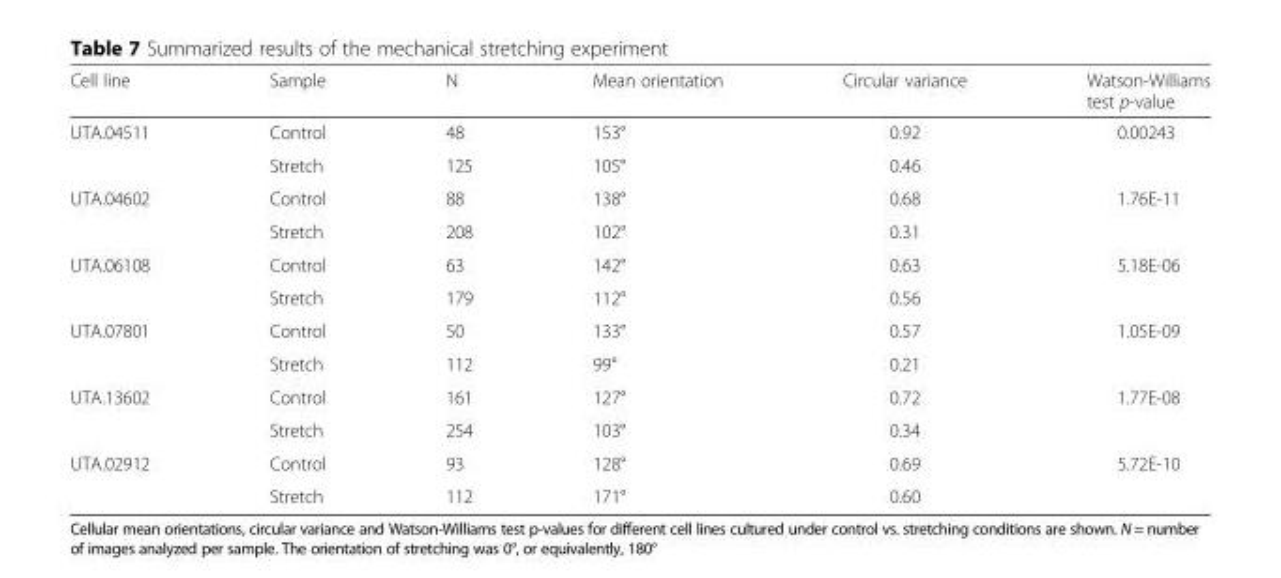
<table><thead><tr><td>Cell line</td><td>Sample</td><td>N</td><td>Mean orientation</td><td>Circular variance</td><td>Watson-Williams test p-value</td></tr></thead><tbody><tr><td rowspan="2">UTA.04511</td><td>Control</td><td>48</td><td>153°</td><td>0.92</td><td rowspan="2">0.00243</td></tr><tr><td>Stretch</td><td>125</td><td>105°</td><td>0.46</td></tr><tr><td rowspan="2">UTA.04602</td><td>Control</td><td>88</td><td>138°</td><td>0.68</td><td rowspan="2">1.76E-11</td></tr><tr><td>Stretch</td><td>208</td><td>102°</td><td>0.31</td></tr><tr><td rowspan="2">UTA.06108</td><td>Control</td><td>63</td><td>142°</td><td>0.63</td><td rowspan="2">5.18E-06</td></tr><tr><td>Stretch</td><td>179</td><td>112°</td><td>0.56</td></tr><tr><td rowspan="2">UTA.07801</td><td>Control</td><td>50</td><td>133°</td><td>0.57</td><td rowspan="2">1.05E-09</td></tr><tr><td>Stretch</td><td>112</td><td>99°</td><td>0.21</td></tr><tr><td rowspan="2">UTA.13602</td><td>Control</td><td>161</td><td>127°</td><td>0.72</td><td rowspan="2">1.77E-08</td></tr><tr><td>Stretch</td><td>254</td><td>103°</td><td>0.34</td></tr><tr><td rowspan="2">UTA.02912</td><td>Control</td><td>93</td><td>128°</td><td>0.69</td><td rowspan="2">5.72E-10</td></tr><tr><td>Stretch</td><td>112</td><td>171°</td><td>0.60</td></tr></tbody></table>